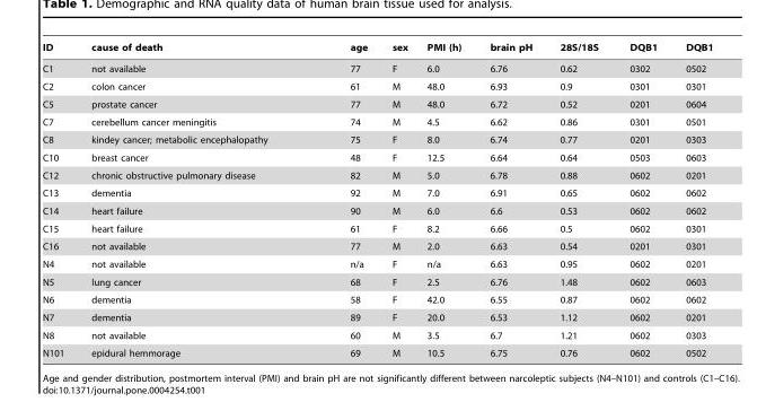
<table><thead><tr><td>ID</td><td>cause of death</td><td>age</td><td>sex</td><td>PMI (h)</td><td>brain pH</td><td>28S/18S</td><td>DQB1</td><td>DQB1</td></tr></thead><tbody><tr><td>C1</td><td>not available</td><td>77</td><td>F</td><td>6.0</td><td>6.76</td><td>0.62</td><td>0302</td><td>0502</td></tr><tr><td>C2</td><td>colon cancer</td><td>61</td><td>M</td><td>48.0</td><td>6.93</td><td>0.9</td><td>0301</td><td>0301</td></tr><tr><td>C5</td><td>prostate cancer</td><td>77</td><td>M</td><td>48.0</td><td>6.72</td><td>0.52</td><td>0201</td><td>0604</td></tr><tr><td>C7</td><td>cerebellum cancer meningitis</td><td>74</td><td>M</td><td>4.5</td><td>6.62</td><td>0.86</td><td>0301</td><td>0501</td></tr><tr><td>C8</td><td>kindey cancer; metabolic encephalopathy</td><td>75</td><td>F</td><td>8.0</td><td>6.74</td><td>0.77</td><td>0201</td><td>0303</td></tr><tr><td>C10</td><td>breast cancer</td><td>48</td><td>F</td><td>12.5</td><td>6.64</td><td>0.64</td><td>0503</td><td>0603</td></tr><tr><td>C12</td><td>chronic obstructive pulmonary disease</td><td>82</td><td>M</td><td>5.0</td><td>6.78</td><td>0.88</td><td>0602</td><td>0201</td></tr><tr><td>C13</td><td>dementia</td><td>92</td><td>M</td><td>7.0</td><td>6.91</td><td>0.65</td><td>0602</td><td>0602</td></tr><tr><td>C14</td><td>heart failure</td><td>90</td><td>M</td><td>6.0</td><td>6.6</td><td>0.53</td><td>0602</td><td>0602</td></tr><tr><td>C15</td><td>heart failure</td><td>61</td><td>F</td><td>8.2</td><td>6.66</td><td>0.5</td><td>0602</td><td>0301</td></tr><tr><td>C16</td><td>not available</td><td>77</td><td>M</td><td>2.0</td><td>6.63</td><td>0.54</td><td>0201</td><td>0301</td></tr><tr><td>N4</td><td>not available</td><td>n/a</td><td>F</td><td>n/a</td><td>6.63</td><td>0.95</td><td>0602</td><td>0201</td></tr><tr><td>N5</td><td>lung cancer</td><td>68</td><td>F</td><td>2.5</td><td>6.76</td><td>1.48</td><td>0602</td><td>0603</td></tr><tr><td>N6</td><td>dementia</td><td>58</td><td>F</td><td>42.0</td><td>6.55</td><td>0.87</td><td>0602</td><td>0602</td></tr><tr><td>N7</td><td>dementia</td><td>89</td><td>F</td><td>20.0</td><td>6.53</td><td>1.12</td><td>0602</td><td>0201</td></tr><tr><td>N8</td><td>not available</td><td>60</td><td>M</td><td>3.5</td><td>6.7</td><td>1.21</td><td>0602</td><td>0303</td></tr><tr><td>N101</td><td>epidural hemmorage</td><td>69</td><td>M</td><td>10.5</td><td>6.75</td><td>0.76</td><td>0602</td><td>0502</td></tr></tbody></table>